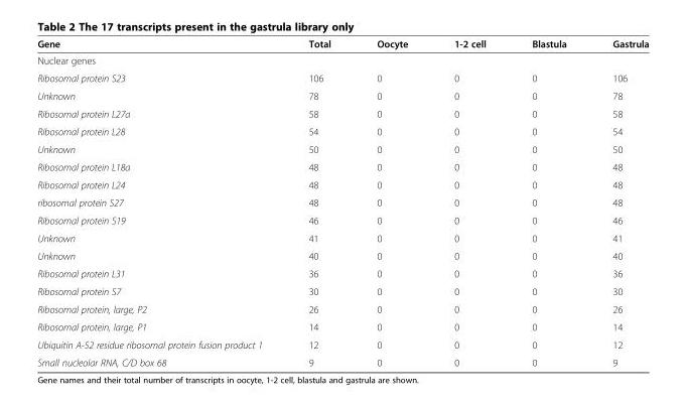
<table><thead><tr><td>Gene</td><td>Total</td><td>Oocyte</td><td>1-2 cell</td><td>Blastula</td><td>Gastrula</td></tr></thead><tbody><tr><td colspan="6">Nuclear genes</td></tr><tr><td>Ribosomal protein S23</td><td>106</td><td>0</td><td>0</td><td>0</td><td>106</td></tr><tr><td>Unknown</td><td>78</td><td>0</td><td>0</td><td>0</td><td>78</td></tr><tr><td>Ribosomal protein L27a</td><td>58</td><td>0</td><td>0</td><td>0</td><td>58</td></tr><tr><td>Ribosomal protein L28</td><td>54</td><td>0</td><td>0</td><td>0</td><td>54</td></tr><tr><td>Unknown</td><td>50</td><td>0</td><td>0</td><td>0</td><td>50</td></tr><tr><td>Ribosomal protein L18a</td><td>48</td><td>0</td><td>0</td><td>0</td><td>48</td></tr><tr><td>Ribosomal protein L24</td><td>48</td><td>0</td><td>0</td><td>0</td><td>48</td></tr><tr><td>ribosomal protein S27</td><td>48</td><td>0</td><td>0</td><td>0</td><td>48</td></tr><tr><td>Ribosomal protein S19</td><td>46</td><td>0</td><td>0</td><td>0</td><td>46</td></tr><tr><td>Unknown</td><td>41</td><td>0</td><td>0</td><td>0</td><td>41</td></tr><tr><td>Unknown</td><td>40</td><td>0</td><td>0</td><td>0</td><td>40</td></tr><tr><td>Ribosomal protein L31</td><td>36</td><td>0</td><td>0</td><td>0</td><td>36</td></tr><tr><td>Ribosomal protein S7</td><td>30</td><td>0</td><td>0</td><td>0</td><td>30</td></tr><tr><td>Ribosomal protein, large, P2</td><td>26</td><td>0</td><td>0</td><td>0</td><td>26</td></tr><tr><td>Ribosomal protein, large, P1</td><td>14</td><td>0</td><td>0</td><td>0</td><td>14</td></tr><tr><td>Ubiquitin A-52 residue ribosomal protein fusion product 1</td><td>12</td><td>0</td><td>0</td><td>0</td><td>12</td></tr><tr><td>Small nucleolar RNA, C/D box 68</td><td>9</td><td>0</td><td>0</td><td>0</td><td>9</td></tr></tbody></table>